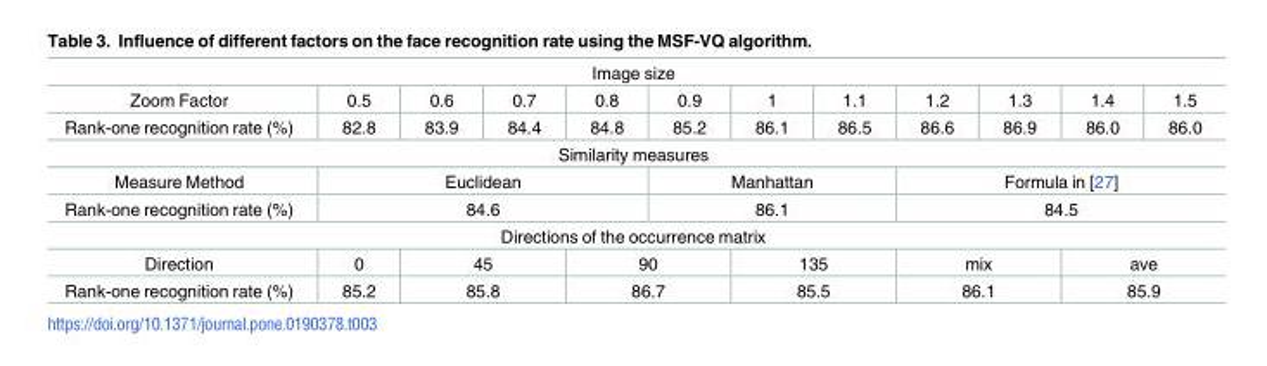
<table><tbody><tr><td colspan="12">Image size</td></tr><tr><td>Zoom Factor</td><td>0.5</td><td>0.6</td><td>0.7</td><td>0.8</td><td>0.9</td><td>1</td><td>1.1</td><td>1.2</td><td>1.3</td><td>1.4</td><td>1.5</td></tr><tr><td>Rank-one recognition rate (%)</td><td>82.8</td><td>83.9</td><td>84.4</td><td>84.8</td><td>85.2</td><td>86.1</td><td>86.5</td><td>86.6</td><td>86.9</td><td>86.0</td><td>86.0</td></tr><tr><td colspan="12">Similarity measures</td></tr><tr><td>Measure Method</td><td colspan="4">Euclidean</td><td colspan="3">Manhattan</td><td colspan="4">Formula in [27]</td></tr><tr><td>Rank-one recognition rate (%)</td><td colspan="4">84.6</td><td colspan="3">86.1</td><td colspan="4">84.5</td></tr><tr><td colspan="12">Directions of the occurrence matrix</td></tr><tr><td>Direction</td><td>0</td><td colspan="2">45</td><td colspan="2">90</td><td colspan="2">135</td><td colspan="2">mix</td><td colspan="2">ave</td></tr><tr><td>Rank-one recognition rate (%)</td><td>85.2</td><td colspan="2">85.8</td><td colspan="2">86.7</td><td colspan="2">85.5</td><td colspan="2">86.1</td><td colspan="2">85.9</td></tr></tbody></table>